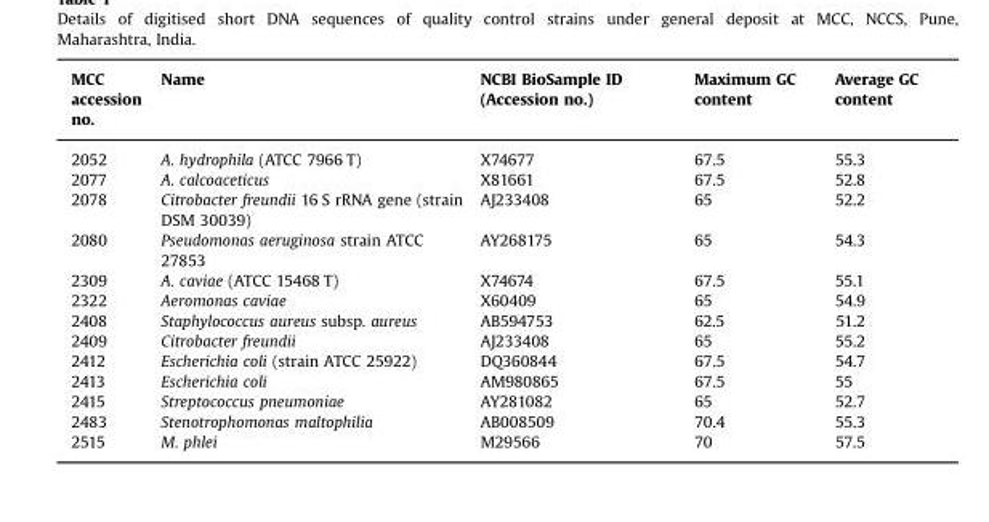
<table><thead><tr><td>MCC accession no.</td><td>Name</td><td>NCBI BioSample ID (Accession no.)</td><td>Maximum GC content</td><td>Average GC content</td></tr></thead><tbody><tr><td>2052</td><td>A. hydrophila (ATCC 7966 T)</td><td>X74677</td><td>67.5</td><td>55.3</td></tr><tr><td>2077</td><td>A. calcoaceticus</td><td>X81661</td><td>67.5</td><td>52.8</td></tr><tr><td>2078</td><td>Citrobacter freundii 16 S rRNA gene (strain DSM 30039)</td><td>AJ233408</td><td>65</td><td>52.2</td></tr><tr><td>2080</td><td>Pseudomonas aeruginosa strain ATCC 27853</td><td>AY268175</td><td>65</td><td>54.3</td></tr><tr><td>2309</td><td>A. caviae (ATCC 15468 T)</td><td>X74674</td><td>67.5</td><td>55.1</td></tr><tr><td>2322</td><td>Aeromonas caviae</td><td>X60409</td><td>65</td><td>54.9</td></tr><tr><td>2408</td><td>Staphylococcus aureus subsp. aureus</td><td>AB594753</td><td>62.5</td><td>51.2</td></tr><tr><td>2409</td><td>Citrobacter freundii</td><td>AJ233408</td><td>65</td><td>55.2</td></tr><tr><td>2412</td><td>Escherichia coli (strain ATCC 25922)</td><td>DQ360844</td><td>67.5</td><td>54.7</td></tr><tr><td>2413</td><td>Escherichia coli</td><td>AM980865</td><td>67.5</td><td>55</td></tr><tr><td>2415</td><td>Streptococcus pneumoniae</td><td>AY281082</td><td>65</td><td>52.7</td></tr><tr><td>2483</td><td>Stenotrophomonas maltophilia</td><td>AB008509</td><td>70.4</td><td>55.3</td></tr><tr><td>2515</td><td>M. phlei</td><td>M29566</td><td>70</td><td>57.5</td></tr></tbody></table>